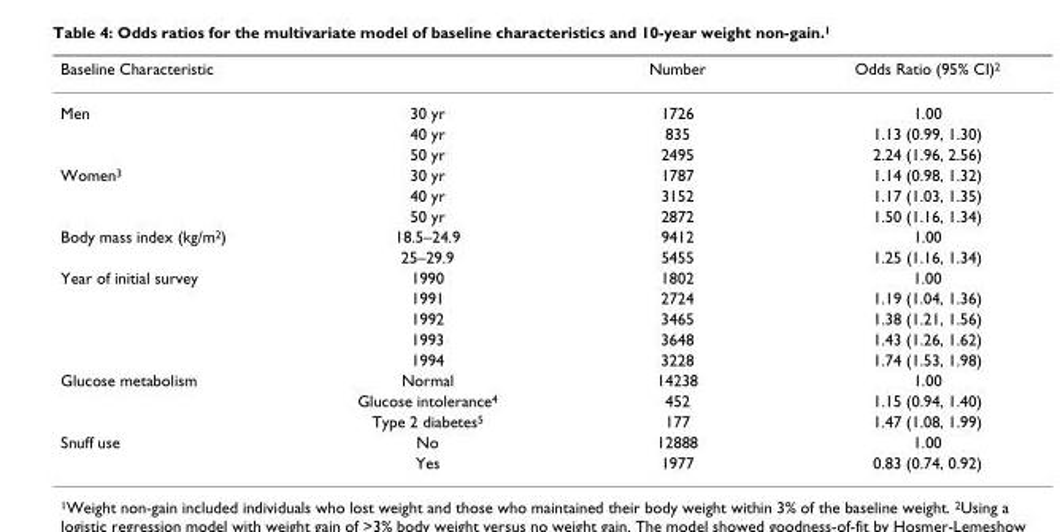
<table><thead><tr><td colspan="2">Baseline Characteristic</td><td rowspan="2">Number 1726</td><td rowspan="2">Odds Ratio (95% CI)<sup>2</sup> 1.00</td></tr><tr><td>Men</td><td>30 yr</td></tr></thead><tbody><tr><td></td><td>40 yr</td><td>835</td><td>1.13 (0.99, 1.30)</td></tr><tr><td></td><td>50 yr</td><td>2495</td><td>2.24 (1.96, 2.56)</td></tr><tr><td rowspan="3">Women<sup>3</sup></td><td>30 yr</td><td>1787</td><td>1.14 (0.98, 1.32)</td></tr><tr><td>40 yr</td><td>3152</td><td>1.17 (1.03, 1.35)</td></tr><tr><td>50 yr</td><td>2872</td><td>1.50 (1.16, 1.34)</td></tr><tr><td rowspan="2">Body mass index (kg/m<sup>2</sup>)</td><td>18.5–24.9</td><td>9412</td><td>1.00</td></tr><tr><td>25–29.9</td><td>5455</td><td>1.25 (1.16, 1.34)</td></tr><tr><td rowspan="5">Year of initial survey</td><td>1990</td><td>1802</td><td>1.00</td></tr><tr><td>1991</td><td>2724</td><td>1.19 (1.04, 1.36)</td></tr><tr><td>1992</td><td>3465</td><td>1.38 (1.21, 1.56)</td></tr><tr><td>1993</td><td>3648</td><td>1.43 (1.26, 1.62)</td></tr><tr><td>1994</td><td>3228</td><td>1.74 (1.53, 1.98)</td></tr><tr><td rowspan="3">Glucose metabolism</td><td>Normal</td><td>14238</td><td>1.00</td></tr><tr><td>Glucose intolerance<sup>4</sup></td><td>452</td><td>1.15 (0.94, 1.40)</td></tr><tr><td>Type 2 diabetes<sup>5</sup></td><td>177</td><td>1.47 (1.08, 1.99)</td></tr><tr><td rowspan="2">Snuff use</td><td>No</td><td>12888</td><td>1.00</td></tr><tr><td>Yes</td><td>1977</td><td>0.83 (0.74, 0.92)</td></tr></tbody></table>